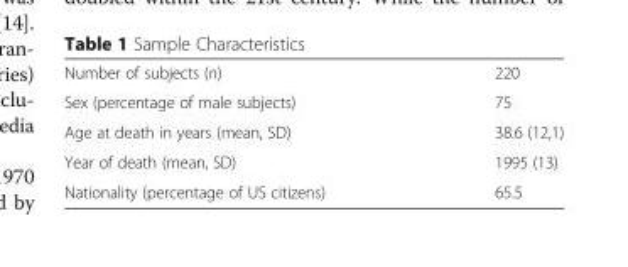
<table><tbody><tr><td>Number of subjects (n)</td><td>220</td></tr><tr><td>Sex (percentage of male subjects)</td><td>75</td></tr><tr><td>Age at death in years (mean, SD)</td><td>38.6 (12,1)</td></tr><tr><td>Year of death (mean, SD)</td><td>1995 (13)</td></tr><tr><td>Nationality (percentage of US citizens)</td><td>65.5</td></tr></tbody></table>